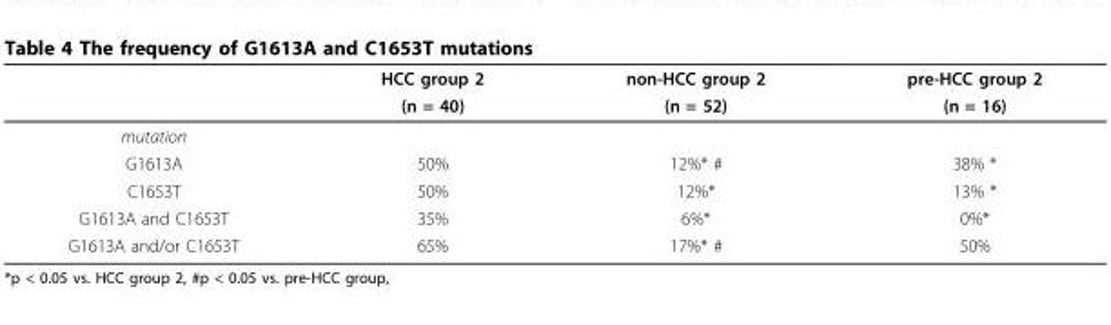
<table><thead><tr><td rowspan="2"></td><td rowspan="2">HCC group 2 (n = 40)</td><td rowspan="2">non-HCC group 2 (n = 52)</td><td rowspan="2">pre-HCC group 2 (n = 16)</td></tr><tr></tr></thead><tbody><tr><td colspan="4">mutation</td></tr><tr><td>G1613A</td><td>50%</td><td>12%* #</td><td>38% *</td></tr><tr><td>C1653T</td><td>50%</td><td>12%*</td><td>13% *</td></tr><tr><td>G1613A and C1653T</td><td>35%</td><td>6%*</td><td>0%*</td></tr><tr><td>G1613A and/or C1653T</td><td>65%</td><td>17%* #</td><td>50%</td></tr></tbody></table>